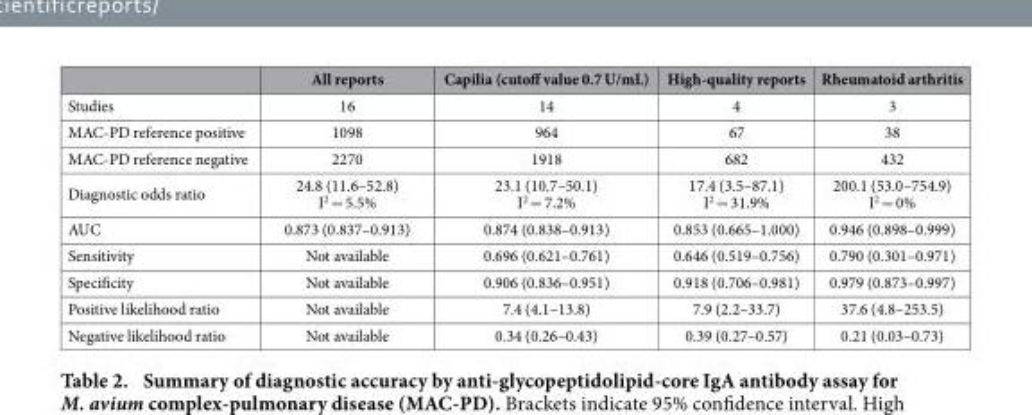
<table><thead><tr><td></td><td>All reports</td><td>Capilia (cutoff value 0.7 U/mL)</td><td>High-quality reports</td><td>Rheumatoid arthritis</td></tr></thead><tbody><tr><td>Studies</td><td>16</td><td>14</td><td>4</td><td>3</td></tr><tr><td>MAC-PD reference positive</td><td>1098</td><td>964</td><td>67</td><td>38</td></tr><tr><td>MAC-PD reference negative</td><td>2270</td><td>1918</td><td>682</td><td>432</td></tr><tr><td>Diagnostic odds ratio</td><td>24.8 (11.6–52.8) I<sup>2</sup> = 5.5%</td><td>23.1 (10.7–50.1) I<sup>2</sup> = 7.2%</td><td>17.4 (3.5–87.1) I<sup>2</sup> = 31.9%</td><td>200.1 (53.0–754.9) I<sup>2</sup> = 0%</td></tr><tr><td>AUC</td><td>0.873 (0.837–0.913)</td><td>0.874 (0.838–0.913)</td><td>0.853 (0.665–1.000)</td><td>0.946 (0.898–0.999)</td></tr><tr><td>Sensitivity</td><td>Not available</td><td>0.696 (0.621–0.761)</td><td>0.646 (0.519–0.756)</td><td>0.790 (0.301–0.971)</td></tr><tr><td>Specificity</td><td>Not available</td><td>0.906 (0.836–0.951)</td><td>0.918 (0.706–0.981)</td><td>0.979 (0.873–0.997)</td></tr><tr><td>Positive likelihood ratio</td><td>Not available</td><td>7.4 (4.1–13.8)</td><td>7.9 (2.2–33.7)</td><td>37.6 (4.8–253.5)</td></tr><tr><td>Negative likelihood ratio</td><td>Not available</td><td>0.34 (0.26–0.43)</td><td>0.39 (0.27–0.57)</td><td>0.21 (0.03–0.73)</td></tr></tbody></table>